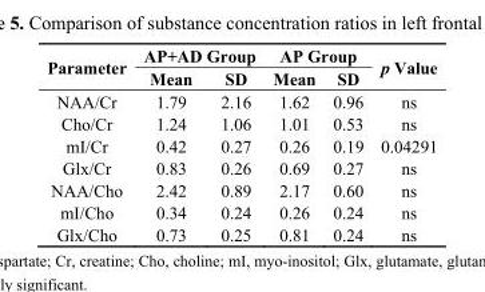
<table><thead><tr><td rowspan="2">Parameter</td><td colspan="2">AP+AD Group</td><td colspan="2">AP Group</td><td rowspan="2">p Value</td></tr><tr><td>Mean</td><td>SD</td><td>Mean</td><td>SD</td></tr></thead><tbody><tr><td>NAA/Cr</td><td>1.79</td><td>2.16</td><td>1.62</td><td>0.96</td><td>ns</td></tr><tr><td>Cho/Cr</td><td>1.24</td><td>1.06</td><td>1.01</td><td>0.53</td><td>ns</td></tr><tr><td>mI/Cr</td><td>0.42</td><td>0.27</td><td>0.26</td><td>0.19</td><td>0.04291</td></tr><tr><td>Glx/Cr</td><td>0.83</td><td>0.26</td><td>0.69</td><td>0.27</td><td>ns</td></tr><tr><td>NAA/Cho</td><td>2.42</td><td>0.89</td><td>2.17</td><td>0.60</td><td>ns</td></tr><tr><td>mI/Cho</td><td>0.34</td><td>0.24</td><td>0.26</td><td>0.24</td><td>ns</td></tr><tr><td>Glx/Cho</td><td>0.73</td><td>0.25</td><td>0.81</td><td>0.24</td><td>ns</td></tr></tbody></table>